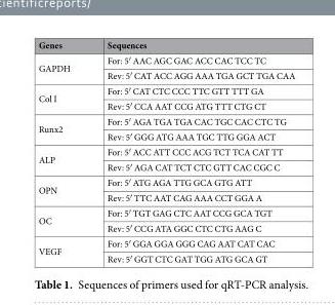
<table><thead><tr><td>Genes</td><td>Sequences</td></tr></thead><tbody><tr><td rowspan="2">GAPDH</td><td>For: 5′ AAC AGC GAC ACC CAC TCC TC</td></tr><tr><td>Rev: 5′ CAT ACC AGG AAA TGA GCT TGA CAA</td></tr><tr><td rowspan="2">Col I</td><td>For: 5′ CAT CTC CCC TTC GTT TTT GA</td></tr><tr><td>Rev: 5′ CCA AAT CCG ATG TTT CTG CT</td></tr><tr><td rowspan="2">Runx2</td><td>For: 5′ AGA TGA TGA CAC TGC CAC CTC TG</td></tr><tr><td>Rev: 5′ GGG ATG AAA TGC TTG GGA ACT</td></tr><tr><td rowspan="2">ALP</td><td>For: 5′ ACC ATT CCC ACG TCT TCA CAT TT</td></tr><tr><td>Rev: 5′ AGA CAT TCT CTC GTT CAC CGC C</td></tr><tr><td rowspan="2">OPN</td><td>For: 5′ ATG AGA TTG GCA GTG ATT</td></tr><tr><td>Rev: 5′ TTC AAT CAG AAA CCT GGA A</td></tr><tr><td rowspan="2">OC</td><td>For: 5′ TGT GAG CTC AAT CCG GCA TGT</td></tr><tr><td>Rev: 5′ CCG ATA GGC CTC CTG AAG C</td></tr><tr><td rowspan="2">VEGF</td><td>For: 5′ GGA GGA GGG CAG AAT CAT CAC</td></tr><tr><td>Rev: 5′ GGT CTC GAT TGG ATG GCA GT</td></tr></tbody></table>